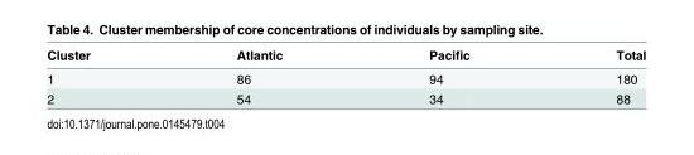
<table><thead><tr><td>Cluster</td><td>Atlantic</td><td>Pacific</td><td>Total</td></tr></thead><tbody><tr><td>1</td><td>86</td><td>94</td><td>180</td></tr><tr><td>2</td><td>54</td><td>34</td><td>88</td></tr></tbody></table>